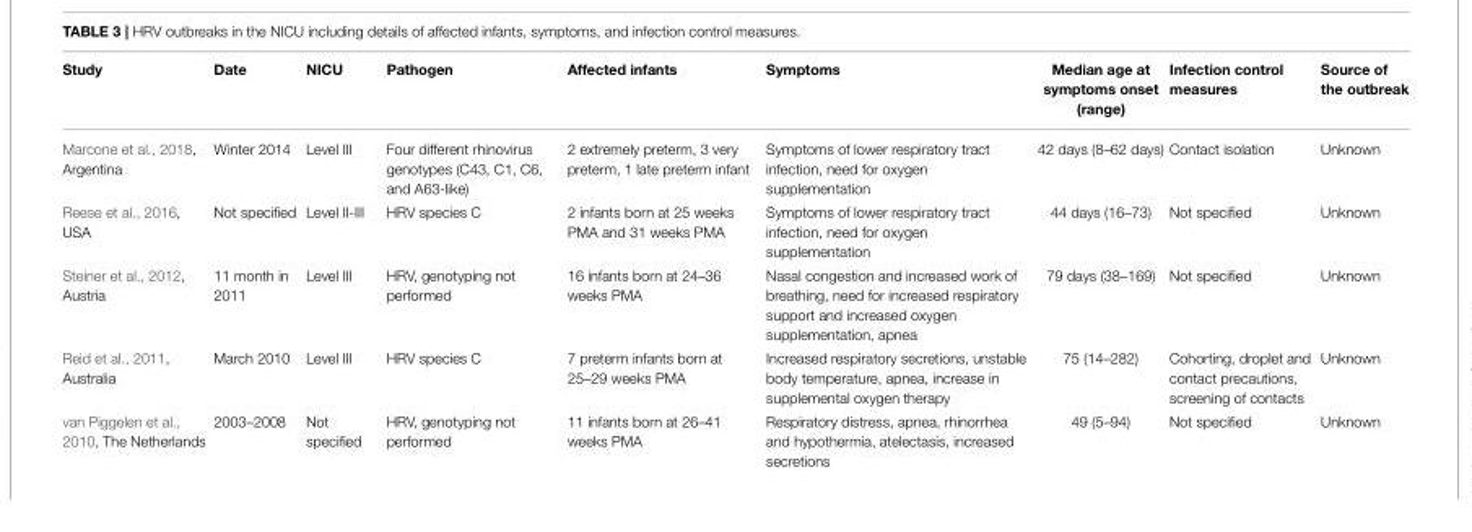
<table><thead><tr><td>Study</td><td>Date</td><td>NICU</td><td>Pathogen</td><td>Affected infants</td><td>Symptoms</td><td>Median age at symptoms onset (range)</td><td>Infection control measures</td><td>Source of the outbreak</td></tr></thead><tbody><tr><td>Marcone et al., 2018, Argentina</td><td>Winter 2014</td><td>Level III</td><td>Four different rhinovirus genotypes (C43, C1, C6, and A63-like)</td><td>2 extremely preterm, 3 very preterm, 1 late preterm infant</td><td>Symptoms of lower respiratory tract infection, need for oxygen supplementation</td><td>42 days (8–62 days)</td><td>Contact isolation</td><td>Unknown</td></tr><tr><td>Reese et al., 2016, USA</td><td>Not specified</td><td>Level II-III</td><td>HRV species C</td><td>2 infants born at 25 weeks PMA and 31 weeks PMA</td><td>Symptoms of lower respiratory tract infection, need for oxygen supplementation</td><td>44 days (16–73)</td><td>Not specified</td><td>Unknown</td></tr><tr><td>Steiner et al., 2012, Austria</td><td>11 month in 2011</td><td>Level III</td><td>HRV, genotyping not performed</td><td>16 infants born at 24–36 weeks PMA</td><td>Nasal congestion and increased work of breathing, need for increased respiratory support and increased oxygen supplementation, apnea</td><td>79 days (38–169)</td><td>Not specified</td><td>Unknown</td></tr><tr><td>Reid et al., 2011, Australia</td><td>March 2010</td><td>Level III</td><td>HRV species C</td><td>7 preterm infants born at 25–29 weeks PMA</td><td>Increased respiratory secretions, unstable body temperature, apnea, increase in supplemental oxygen therapy</td><td>75 (14–282)</td><td>Cohorting, droplet and contact precautions, screening of contacts</td><td>Unknown</td></tr><tr><td>van Piggelen et al., 2010, The Netherlands</td><td>2003–2008</td><td>Not specified</td><td>HRV, genotyping not performed</td><td>11 infants born at 26–41 weeks PMA</td><td>Respiratory distress, apnea, rhinorrhea and hypothermia, atelectasis, increased secretions</td><td>49 (5–94)</td><td>Not specified</td><td>Unknown</td></tr></tbody></table>